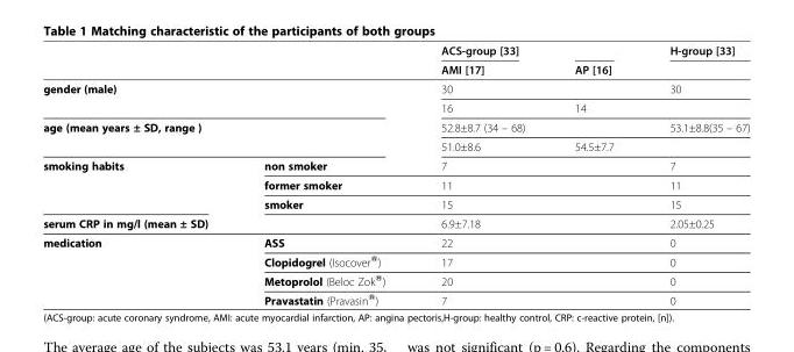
<table><thead><tr><td rowspan="2"></td><td rowspan="2"></td><td rowspan="2">ACS-group [33] AMI [17]</td><td rowspan="2">AP [16]</td><td rowspan="2">H-group [33]</td></tr><tr></tr></thead><tbody><tr><td rowspan="2">gender (male)</td><td rowspan="2"></td><td>30</td><td></td><td>30</td></tr><tr><td>16</td><td>14</td><td></td></tr><tr><td rowspan="2">age (mean years ± SD, range )</td><td rowspan="2"></td><td colspan="2">52.8±8.7 (34 – 68)</td><td>53.1±8.8(35 – 67)</td></tr><tr><td>51.0±8.6</td><td>54.5±7.7</td><td></td></tr><tr><td rowspan="3">smoking habits</td><td>non smoker</td><td colspan="2">7</td><td>7</td></tr><tr><td>former smoker</td><td colspan="2">11</td><td>11</td></tr><tr><td>smoker</td><td colspan="2">15</td><td>15</td></tr><tr><td>serum CRP in mg/l (mean ± SD)</td><td></td><td colspan="2">6.9±7.18</td><td>2.05±0.25</td></tr><tr><td rowspan="4">medication</td><td>ASS</td><td colspan="2">22</td><td>0</td></tr><tr><td>Clopidogrel (Isocover®)</td><td colspan="2">17</td><td>0</td></tr><tr><td>Metoprolol (Beloc Zok®)</td><td colspan="2">20</td><td>0</td></tr><tr><td>Pravastatin (PravasinW)</td><td colspan="2">7</td><td>0</td></tr></tbody></table>